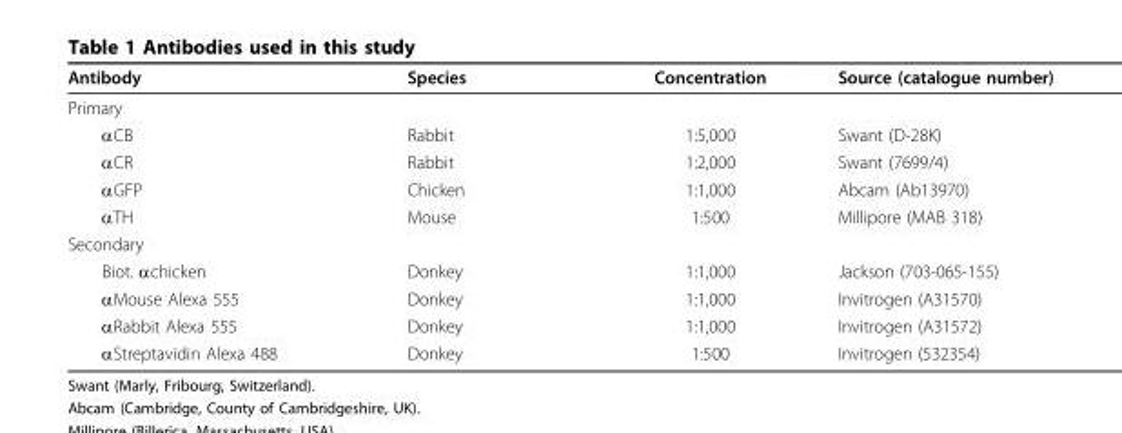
<table><thead><tr><td>Antibody</td><td>Species</td><td>Concentration</td><td>Source (catalogue number)</td></tr></thead><tbody><tr><td colspan="4">Primary</td></tr><tr><td>αCB</td><td>Rabbit</td><td>1:5,000</td><td>Swant (D-28K)</td></tr><tr><td>αCR</td><td>Rabbit</td><td>1:2,000</td><td>Swant (7699/4)</td></tr><tr><td>αGFP</td><td>Chicken</td><td>1:1,000</td><td>Abcam (Ab13970)</td></tr><tr><td>αTH</td><td>Mouse</td><td>1:500</td><td>Millipore (MAB 318)</td></tr><tr><td colspan="4">Secondary</td></tr><tr><td>Biot. αchicken</td><td>Donkey</td><td>1:1,000</td><td>Jackson (703-065-155)</td></tr><tr><td>αMouse Alexa 555</td><td>Donkey</td><td>1:1,000</td><td>Invitrogen (A31570)</td></tr><tr><td>αRabbit Alexa 555</td><td>Donkey</td><td>1:1,000</td><td>Invitrogen (A31572)</td></tr><tr><td>αStreptavidin Alexa 488</td><td>Donkey</td><td>1:500</td><td>Invitrogen (532354)</td></tr></tbody></table>